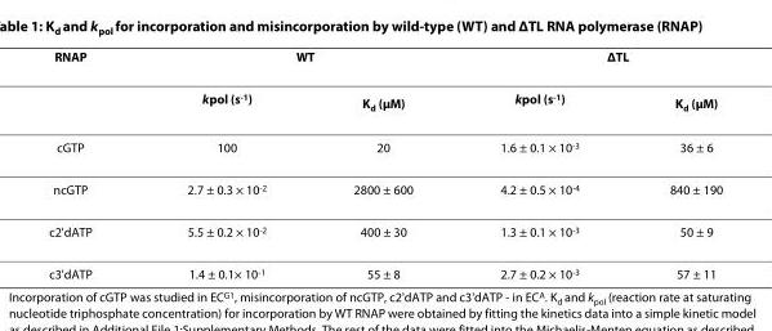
<table><thead><tr><td rowspan="2">RNAP</td><td colspan="2">WT</td><td colspan="2">ΔTL</td></tr><tr><td>k<sub>pol</sub> (s<sup>-1</sup>)</td><td>K<sub>d</sub> (μM)</td><td>k<sub>pol</sub> (s<sup>-1</sup>)</td><td>K<sub>d</sub> (μM)</td></tr></thead><tbody><tr><td>cGTP</td><td>100</td><td>20</td><td>1.6 ± 0.1 × 10<sup>-3</sup></td><td>36 ± 6</td></tr><tr><td>ncGTP</td><td>2.7 ± 0.3 × 10<sup>-2</sup></td><td>2800 ± 600</td><td>4.2 ± 0.5 × 10<sup>-4</sup></td><td>840 ± 190</td></tr><tr><td>c2&#x27;dATP</td><td>5.5 ± 0.2 × 10<sup>-2</sup></td><td>400 ± 30</td><td>1.3 ± 0.1 × 10<sup>-3</sup></td><td>50 ± 9</td></tr><tr><td>c3&#x27;dATP</td><td>1.4 ± 0.1× 10<sup>-1</sup></td><td>55 ± 8</td><td>2.7 ± 0.2 × 10<sup>-3</sup></td><td>57 ± 11</td></tr></tbody></table>